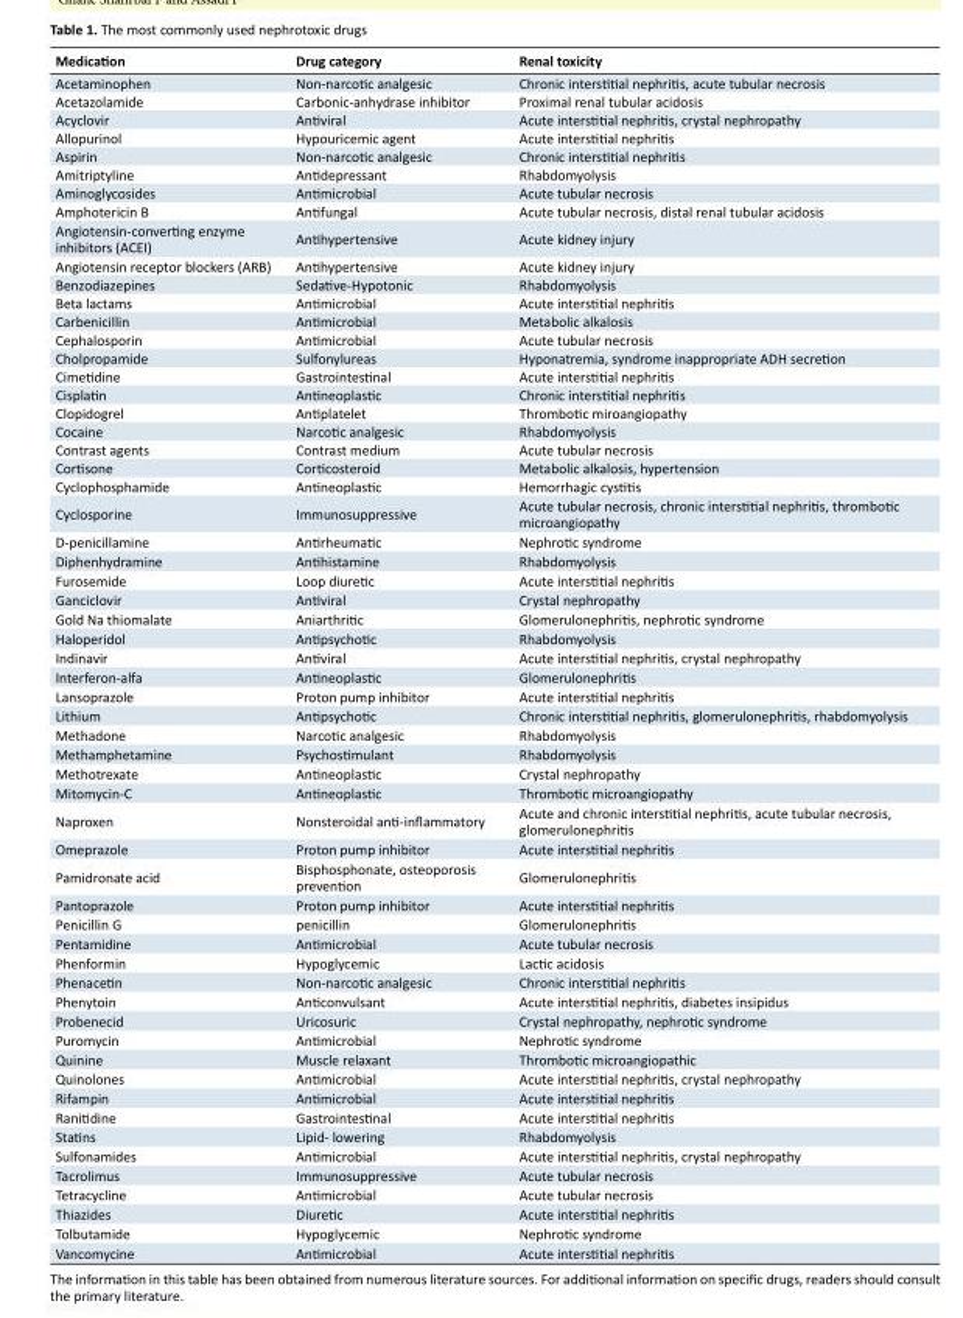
<table><tbody><tr><td>Medication</td><td>Drug category</td><td>Renal toxicity</td></tr><tr><td>Acetaminophen</td><td>Non-narcotic analgesic</td><td>Chronic interstitial nephritis, acute tubular necrosis</td></tr><tr><td>Acetazolamide</td><td>Carbonic-anhydrase inhibitor</td><td>Proximal renal tubular acidosis</td></tr><tr><td>Acyclovir</td><td>Antiviral</td><td>Acute interstitial nephritis, crystal nephropathy</td></tr><tr><td>Allopurinol</td><td>Hypouricemic agent</td><td>Acute interstitial nephritis</td></tr><tr><td>Aspirin</td><td>Non-narcotic analgesic</td><td>Chronic interstitial nephritis</td></tr><tr><td>Amitriptyline</td><td>Antidepressant</td><td>Rhabdomyolysis</td></tr><tr><td>Aminoglycosides</td><td>Antimicrobial</td><td>Acute tubular necrosis</td></tr><tr><td>Amphotericin B</td><td>Antifungal</td><td>Acute tubular necrosis, distal renal tubular acidosis</td></tr><tr><td>Angiotensin-converting enzyme inhibitors (ACEI)</td><td>Antihypertensive</td><td>Acute kidney injury</td></tr><tr><td>Angiotensin receptor blockers (ARB)</td><td>Antihypertensive</td><td>Acute kidney injury</td></tr><tr><td>Benzodiazepines</td><td>Sedative-Hypotonic</td><td>Rhabdomyolysis</td></tr><tr><td>Beta lactams</td><td>Antimicrobial</td><td>Acute interstitial nephritis</td></tr><tr><td>Carbenicillin</td><td>Antimicrobial</td><td>Metabolic alkalosis</td></tr><tr><td>Cephalosporin</td><td>Antimicrobial</td><td>Acute tubular necrosis</td></tr><tr><td>Cholpropamide</td><td>Sulfonylureas</td><td>Hyponatremia, syndrome inappropriate ADH secretion</td></tr><tr><td>Cimetidine</td><td>Gastrointestinal</td><td>Acute interstitial nephritis</td></tr><tr><td>Cisplatin</td><td>Antineoplastic</td><td>Chronic interstitial nephritis</td></tr><tr><td>Clopidogrel</td><td>Antiplatelet</td><td>Thrombotic miroangiopathy</td></tr><tr><td>Cocaine</td><td>Narcotic analgesic</td><td>Rhabdomyolysis</td></tr><tr><td>Contrast agents</td><td>Contrast medium</td><td>Acute tubular necrosis</td></tr><tr><td>Cortisone</td><td>Corticosteroid</td><td>Metabolic alkalosis, hypertension</td></tr><tr><td>Cyclophosphamide</td><td>Antineoplastic</td><td>Hemorrhagic cystitis</td></tr><tr><td>Cyclosporine</td><td>Immunosuppressive</td><td>Acute tubular necrosis, chronic interstitial nephritis, thrombotic microangiopathy</td></tr><tr><td>D-penicillamine</td><td>Antirheumatic</td><td>Nephrotic syndrome</td></tr><tr><td>Diphenhydramine</td><td>Antihistamine</td><td>Rhabdomyolysis</td></tr><tr><td>Furosemide</td><td>Loop diuretic</td><td>Acute interstitial nephritis</td></tr><tr><td>Ganciclovir</td><td>Antiviral</td><td>Crystal nephropathy</td></tr><tr><td>Gold Na thiomalate</td><td>Aniarthritic</td><td>Glomerulonephritis, nephrotic syndrome</td></tr><tr><td>Haloperidol</td><td>Antipsychotic</td><td>Rhabdomyolysis</td></tr><tr><td>Indinavir</td><td>Antiviral</td><td>Acute interstitial nephritis, crystal nephropathy</td></tr><tr><td>Interferon-alfa</td><td>Antineoplastic</td><td>Glomerulonephritis</td></tr><tr><td>Lansoprazole</td><td>Proton pump inhibitor</td><td>Acute interstitial nephritis</td></tr><tr><td>Lithium</td><td>Antipsychotic</td><td>Chronic interstitial nephritis, glomerulonephritis, rhabdomyolysis</td></tr><tr><td>Methadone</td><td>Narcotic analgesic</td><td>Rhabdomyolysis</td></tr><tr><td>Methamphetamine</td><td>Psychostimulant</td><td>Rhabdomyolysis</td></tr><tr><td>Methotrexate</td><td>Antineoplastic</td><td>Crystal nephropathy</td></tr><tr><td>Mitomycin-C</td><td>Antineoplastic</td><td>Thrombotic microangiopathy</td></tr><tr><td>Naproxen</td><td>Nonsteroidal anti-inflammatory</td><td>Acute and chronic interstitial nephritis, acute tubular necrosis, glomerulonephritis</td></tr><tr><td>Omeprazole</td><td>Proton pump inhibitor</td><td>Acute interstitial nephritis</td></tr><tr><td>Pamidronate acid</td><td>Bisphosphonate, osteoporosis prevention</td><td>Glomerulonephritis</td></tr><tr><td>Pantoprazole</td><td>Proton pump inhibitor</td><td>Acute interstitial nephritis</td></tr><tr><td>Penicillin G</td><td>penicillin</td><td>Glomerulonephritis</td></tr><tr><td>Pentamidine</td><td>Antimicrobial</td><td>Acute tubular necrosis</td></tr><tr><td>Phenformin</td><td>Hypoglycemic</td><td>Lactic acidosis</td></tr><tr><td>Phenacetin</td><td>Non-narcotic analgesic</td><td>Chronic interstitial nephritis</td></tr><tr><td>Phenytoin</td><td>Anticonvulsant</td><td>Acute interstitial nephritis, diabetes insipidus</td></tr><tr><td>Probenecid</td><td>Uricosuric</td><td>Crystal nephropathy, nephrotic syndrome</td></tr><tr><td>Puromycin</td><td>Antimicrobial</td><td>Nephrotic syndrome</td></tr><tr><td>Quinine</td><td>Muscle relaxant</td><td>Thrombotic microangiopathic</td></tr><tr><td>Quinolones</td><td>Antimicrobial</td><td>Acute interstitial nephritis, crystal nephropathy</td></tr><tr><td>Rifampin</td><td>Antimicrobial</td><td>Acute interstitial nephritis</td></tr><tr><td>Ranitidine</td><td>Gastrointestinal</td><td>Acute interstitial nephritis</td></tr><tr><td>Statins</td><td>Lipid- lowering</td><td>Rhabdomyolysis</td></tr><tr><td>Sulfonamides</td><td>Antimicrobial</td><td>Acute interstitial nephritis, crystal nephropathy</td></tr><tr><td>Tacrolimus</td><td>Immunosuppressive</td><td>Acute tubular necrosis</td></tr><tr><td>Tetracycline</td><td>Antimicrobial</td><td>Acute tubular necrosis</td></tr><tr><td>Thiazides</td><td>Diuretic</td><td>Acute interstitial nephritis</td></tr><tr><td>Tolbutamide</td><td>Hypoglycemic</td><td>Nephrotic syndrome</td></tr><tr><td>Vancomycine</td><td>Antimicrobial</td><td>Acute interstitial nephritis</td></tr></tbody></table>